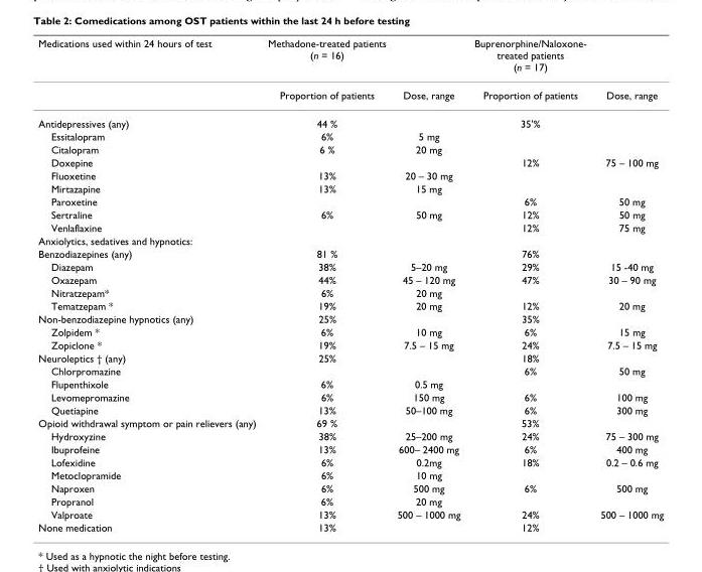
<table><thead><tr><td>Medications used within 24 hours of test</td><td>Methadone-treated patients (n = 16)</td><td></td><td>Buprenorphine/Naloxone- treated patients (n = 17)</td><td></td></tr></thead><tbody><tr><td></td><td>Proportion of patients</td><td>Dose, range</td><td>Proportion of patients</td><td>Dose, range</td></tr><tr><td>Antidepressives (any)</td><td>44 %</td><td></td><td>35&#x27;%</td><td></td></tr><tr><td>Essitalopram</td><td>6%</td><td>5 mg</td><td></td><td></td></tr><tr><td>Citalopram</td><td>6 %</td><td>20 mg</td><td></td><td></td></tr><tr><td>Doxepine</td><td></td><td></td><td>12%</td><td>75 – 100 mg</td></tr><tr><td>Fluoxetine</td><td>13%</td><td>20 – 30 mg</td><td></td><td></td></tr><tr><td>Mirtazapine</td><td>13%</td><td>15 mg</td><td></td><td></td></tr><tr><td>Paroxetine</td><td></td><td></td><td>6%</td><td>50 mg</td></tr><tr><td>Sertraline</td><td>6%</td><td>50 mg</td><td>12%</td><td>50 mg</td></tr><tr><td>Venlaflaxine</td><td></td><td></td><td>12%</td><td>75 mg</td></tr><tr><td colspan="5">Anxiolytics, sedatives and hypnotics:</td></tr><tr><td>Benzodiazepines (any)</td><td>81 %</td><td></td><td>76%</td><td></td></tr><tr><td>Diazepam</td><td>38%</td><td>5–20 mg</td><td>29%</td><td>15 -40 mg</td></tr><tr><td>Oxazepam</td><td>44%</td><td>45 – 120 mg</td><td>47%</td><td>30 – 90 mg</td></tr><tr><td>Nitratzepam*</td><td>6%</td><td>20 mg</td><td></td><td></td></tr><tr><td>Tematzepam *</td><td>19%</td><td>20 mg</td><td>12%</td><td>20 mg</td></tr><tr><td>Non-benzodiazepine hypnotics (any)</td><td>25%</td><td></td><td>35%</td><td></td></tr><tr><td>Zolpidem *</td><td>6%</td><td>10 mg</td><td>6%</td><td>15 mg</td></tr><tr><td>Zopiclone *</td><td>19%</td><td>7.5 – 15 mg</td><td>24%</td><td>7.5 – 15 mg</td></tr><tr><td>Neuroleptics † (any)</td><td>25%</td><td></td><td>18%</td><td></td></tr><tr><td>Chlorpromazine</td><td></td><td></td><td>6%</td><td>50 mg</td></tr><tr><td>Flupenthixole</td><td>6%</td><td>0.5 mg</td><td></td><td></td></tr><tr><td>Levomepromazine</td><td>6%</td><td>150 mg</td><td>6%</td><td>100 mg</td></tr><tr><td>Quetiapine</td><td>13%</td><td>50–100 mg</td><td>6%</td><td>300 mg</td></tr><tr><td>Opioid withdrawal symptom or pain relievers (any)</td><td>69 %</td><td></td><td>53%</td><td></td></tr><tr><td>Hydroxyzine</td><td>38%</td><td>25–200 mg</td><td>24%</td><td>75 – 300 mg</td></tr><tr><td>Ibuprofeine</td><td>13%</td><td>600– 2400 mg</td><td>6%</td><td>400 mg</td></tr><tr><td>Lofexidine</td><td>6%</td><td>0.2mg</td><td>18%</td><td>0.2 – 0.6 mg</td></tr><tr><td>Metoclopramide</td><td>6%</td><td>10 mg</td><td></td><td></td></tr><tr><td>Naproxen</td><td>6%</td><td>500 mg</td><td>6%</td><td>500 mg</td></tr><tr><td>Propranol</td><td>6%</td><td>20 mg</td><td></td><td></td></tr><tr><td>Valproate</td><td>13%</td><td>500 – 1000 mg</td><td>24%</td><td>500 – 1000 mg</td></tr><tr><td>None medication</td><td>13%</td><td></td><td>12%</td><td></td></tr></tbody></table>